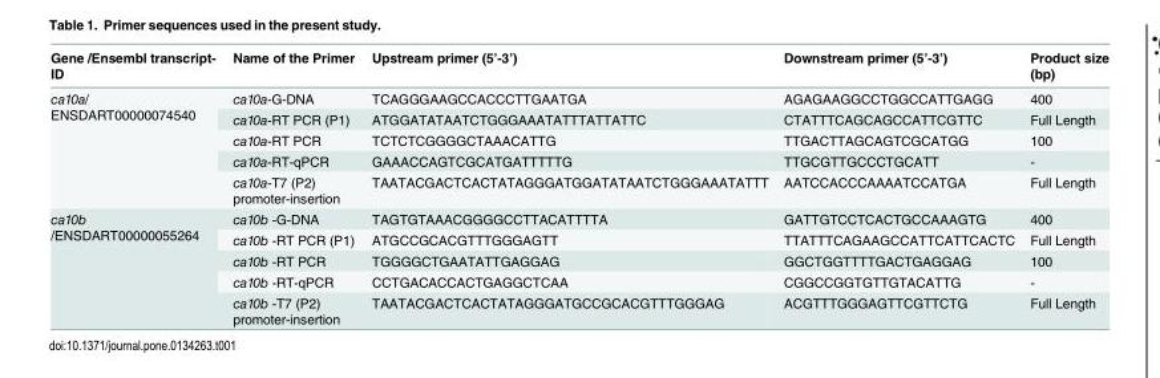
<table><thead><tr><td>Gene /Ensembl transcript- ID</td><td>Name of the Primer</td><td>Upstream primer (5’-3’)</td><td>Downstream primer (5’-3’)</td><td>Product size (bp)</td></tr></thead><tbody><tr><td rowspan="5">ca10a/ ENSDART00000074540</td><td>ca10a-G-DNA</td><td>TCAGGGAAGCCACCCTTGAATGA</td><td>AGAGAAGGCCTGGCCATTGAGG</td><td>400</td></tr><tr><td>ca10a-RT PCR (P1)</td><td>ATGGATATAATCTGGGAAATATTTATTATTC</td><td>CTATTTCAGCAGCCATTCGTTC</td><td>Full Length</td></tr><tr><td>ca10a-RT PCR</td><td>TCTCTCGGGGCTAAACATTG</td><td>TTGACTTAGCAGTCGCATGG</td><td>100</td></tr><tr><td>ca10a-RT-qPCR</td><td>GAAACCAGTCGCATGATTTTTG</td><td>TTGCGTTGCCCTGCATT</td><td>-</td></tr><tr><td>ca10a-T7 (P2) promoter-insertion</td><td>TAATACGACTCACTATAGGGATGGATATAATCTGGGAAATATTT</td><td>AATCCACCCAAAATCCATGA</td><td>Full Length</td></tr><tr><td rowspan="5">ca10b /ENSDART00000055264</td><td>ca10b -G-DNA</td><td>TAGTGTAAACGGGGCCTTACATTTTA</td><td>GATTGTCCTCACTGCCAAAGTG</td><td>400</td></tr><tr><td>ca10b -RT PCR (P1)</td><td>ATGCCGCACGTTTGGGAGTT</td><td>TTATTTCAGAAGCCATTCATTCACTC</td><td>Full Length</td></tr><tr><td>ca10b -RT PCR</td><td>TGGGGCTGAATATTGAGGAG</td><td>GGCTGGTTTTGACTGAGGAG</td><td>100</td></tr><tr><td>ca10b -RT-qPCR</td><td>CCTGACACCACTGAGGCTCAA</td><td>CGGCCGGTGTTGTACATTG</td><td>-</td></tr><tr><td>ca10b -T7 (P2) promoter-insertion</td><td>TAATACGACTCACTATAGGGATGCCGCACGTTTGGGAG</td><td>ACGTTTGGGAGTTCGTTCTG</td><td>Full Length</td></tr></tbody></table>